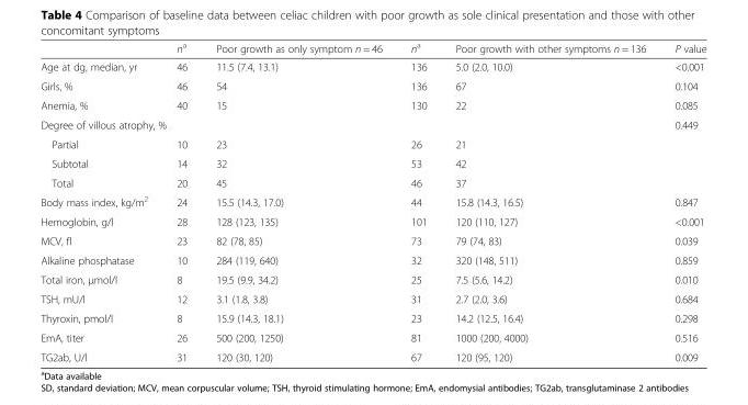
<table><thead><tr><td></td><td>n<sup>a</sup></td><td>Poor growth as only symptom n = 46</td><td>n<sup>a</sup></td><td>Poor growth with other symptoms n = 136</td><td>P value</td></tr></thead><tbody><tr><td>Age at dg, median, yr</td><td>46</td><td>11.5 (7.4, 13.1)</td><td>136</td><td>5.0 (2.0, 10.0)</td><td>&lt;0.001</td></tr><tr><td>Girls, %</td><td>46</td><td>54</td><td>136</td><td>67</td><td>0.104</td></tr><tr><td>Anemia, %</td><td>40</td><td>15</td><td>130</td><td>22</td><td>0.085</td></tr><tr><td colspan="5">Degree of villous atrophy, %</td><td>0.449</td></tr><tr><td>Partial</td><td>10</td><td>23</td><td>26</td><td>21</td><td></td></tr><tr><td>Subtotal</td><td>14</td><td>32</td><td>53</td><td>42</td><td></td></tr><tr><td>Total</td><td>20</td><td>45</td><td>46</td><td>37</td><td></td></tr><tr><td>Body mass index, kg/m<sup>2</sup></td><td>24</td><td>15.5 (14.3, 17.0)</td><td>44</td><td>15.8 (14.3, 16.5)</td><td>0.847</td></tr><tr><td>Hemoglobin, g/l</td><td>28</td><td>128 (123, 135)</td><td>101</td><td>120 (110, 127)</td><td>&lt;0.001</td></tr><tr><td>MCV, fl</td><td>23</td><td>82 (78, 85)</td><td>73</td><td>79 (74, 83)</td><td>0.039</td></tr><tr><td>Alkaline phosphatase</td><td>10</td><td>284 (119, 640)</td><td>32</td><td>320 (148, 511)</td><td>0.859</td></tr><tr><td>Total iron, μmol/l</td><td>8</td><td>19.5 (9.9, 34.2)</td><td>25</td><td>7.5 (5.6, 14.2)</td><td>0.010</td></tr><tr><td>TSH, mU/l</td><td>12</td><td>3.1 (1.8, 3.8)</td><td>31</td><td>2.7 (2.0, 3.6)</td><td>0.684</td></tr><tr><td>Thyroxin, pmol/l</td><td>8</td><td>15.9 (14.3, 18.1)</td><td>23</td><td>14.2 (12.5, 16.4)</td><td>0.298</td></tr><tr><td>EmA, titer</td><td>26</td><td>500 (200, 1250)</td><td>81</td><td>1000 (200, 4000)</td><td>0.516</td></tr><tr><td>TG2ab, U/l</td><td>31</td><td>120 (30, 120)</td><td>67</td><td>120 (95, 120)</td><td>0.009</td></tr></tbody></table>